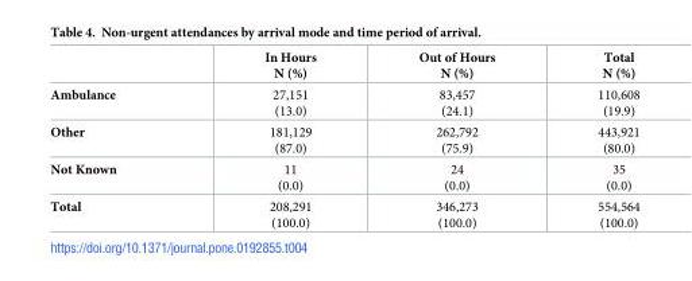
<table><thead><tr><td></td><td>In Hours N (%)</td><td>Out of Hours N (%)</td><td>Total N (%)</td></tr></thead><tbody><tr><td>Ambulance</td><td>27,151 (13.0)</td><td>83,457 (24.1)</td><td>110,608 (19.9)</td></tr><tr><td>Other</td><td>181,129 (87.0)</td><td>262,792 (75.9)</td><td>443,921 (80.0)</td></tr><tr><td>Not Known</td><td>11 (0.0)</td><td>24 (0.0)</td><td>35 (0.0)</td></tr><tr><td>Total</td><td>208,291 (100.0)</td><td>346,273 (100.0)</td><td>554,564 (100.0)</td></tr></tbody></table>